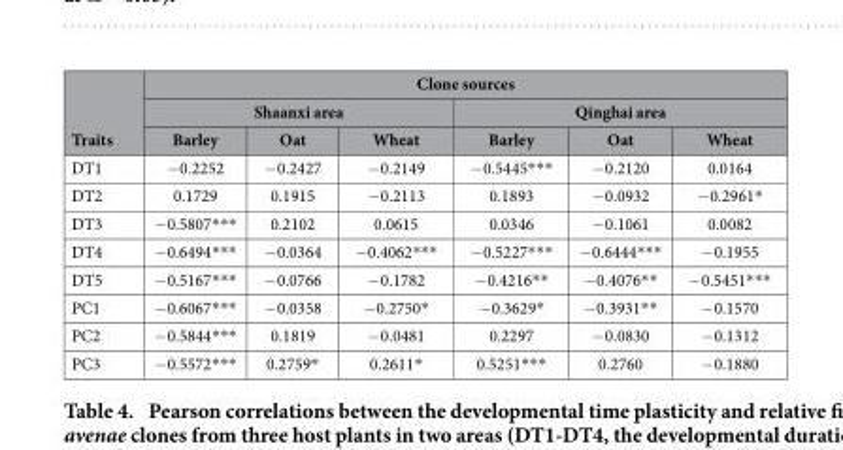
<table><thead><tr><td rowspan="3">Traits</td><td colspan="6">Clone sources</td></tr><tr><td colspan="3">Shaanxi area</td><td colspan="3">Qinghai area</td></tr><tr><td>Barley</td><td>Oat</td><td>Wheat</td><td>Barley</td><td>Oat</td><td>Wheat</td></tr></thead><tbody><tr><td>DT1</td><td>− 0.2252</td><td>− 0.2427</td><td>− 0.2149</td><td>− 0.5445* * *</td><td>− 0.2120</td><td>0.0164</td></tr><tr><td>DT2</td><td>0.1729</td><td>0.1915</td><td>− 0.2113</td><td>0.1893</td><td>− 0.0932</td><td>− 0.2961*</td></tr><tr><td>DT3</td><td>− 0.5807* * *</td><td>0.2102</td><td>0.0615</td><td>0.0346</td><td>− 0.1061</td><td>0.0082</td></tr><tr><td>DT4</td><td>− 0.6494* * *</td><td>− 0.0364</td><td>− 0.4062* * *</td><td>− 0.5227* * *</td><td>− 0.6444* * *</td><td>− 0.1955</td></tr><tr><td>DT5</td><td>− 0.5167* * *</td><td>− 0.0766</td><td>− 0.1782</td><td>− 0.4216* *</td><td>− 0.4076* *</td><td>− 0.5451* * *</td></tr><tr><td>PC1</td><td>− 0.6067* * *</td><td>− 0.0358</td><td>− 0.2750*</td><td>− 0.3629*</td><td>− 0.3931* *</td><td>− 0.1570</td></tr><tr><td>PC2</td><td>− 0.5844* * *</td><td>0.1819</td><td>− 0.0481</td><td>0.2297</td><td>− 0.0830</td><td>− 0.1312</td></tr><tr><td>PC3</td><td>− 0.5572* * *</td><td>0.2759*</td><td>0.2611*</td><td>0.5251* * *</td><td>0.2760</td><td>− 0.1880</td></tr></tbody></table>